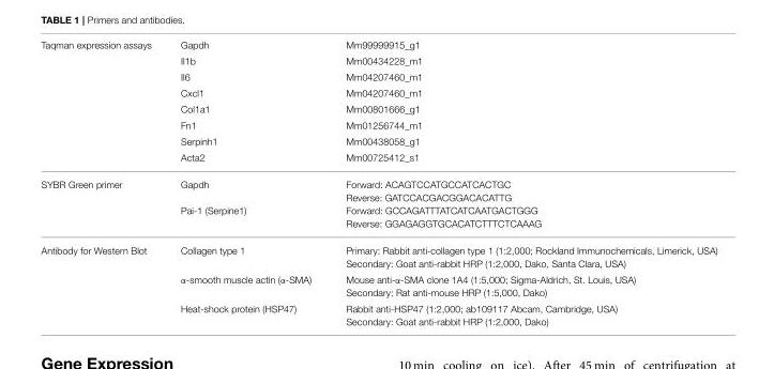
<table><tbody><tr><td rowspan="8">Taqman expression assays</td><td>Gapdh</td><td>Mm99999915_g1</td></tr><tr><td>Il1b</td><td>Mm00434228_m1</td></tr><tr><td>Il6</td><td>Mm04207460_m1</td></tr><tr><td>Cxcl1</td><td>Mm04207460_m1</td></tr><tr><td>Col1a1</td><td>Mm00801666_g1</td></tr><tr><td>Fn1</td><td>Mm01256744_m1</td></tr><tr><td>Serpinh1</td><td>Mm00438058_g1</td></tr><tr><td>Acta2</td><td>Mm00725412_s1</td></tr><tr><td>SYBR Green primer</td><td>Gapdh Pai-1 (Serpine1)</td><td>Forward: ACAGTCCATGCCATCACTGC Reverse: GATCCACGACGGACACATTG Forward: GCCAGATTTATCATCAATGACTGGG Reverse: GGAGAGGTGCACATCTTTCTCAAAG</td></tr><tr><td rowspan="3">Antibody for Western Blot</td><td>Collagen type 1</td><td>Primary: Rabbit anti-collagen type 1 (1:2,000; Rockland Immunochemicals, Limerick, USA) Secondary: Goat anti-rabbit HRP (1:2,000, Dako, Santa Clara, USA)</td></tr><tr><td>α-smooth muscle actin (α-SMA)</td><td>Mouse anti-α-SMA clone 1A4 (1:5,000; Sigma-Aldrich, St. Louis, USA) Secondary: Rat anti-mouse HRP (1:5,000, Dako)</td></tr><tr><td>Heat-shock protein (HSP47)</td><td>Rabbit anti-HSP47 (1:2,000; ab109117 Abcam, Cambridge, USA) Secondary: Goat anti-rabbit HRP (1:2,000, Dako)</td></tr></tbody></table>